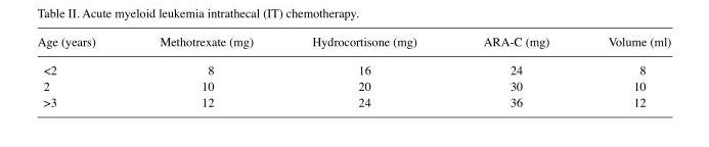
<table><thead><tr><td>Age (years)</td><td>Methotrexate (mg)</td><td>Hydrocortisone (mg)</td><td>ARA-C (mg)</td><td>volume (ml)</td></tr></thead><tbody><tr><td>&lt;2</td><td>8</td><td>16</td><td>24</td><td>8</td></tr><tr><td>2</td><td>10</td><td>20</td><td>30</td><td>10</td></tr><tr><td>&gt;3</td><td>12</td><td>24</td><td>36</td><td>12</td></tr></tbody></table>